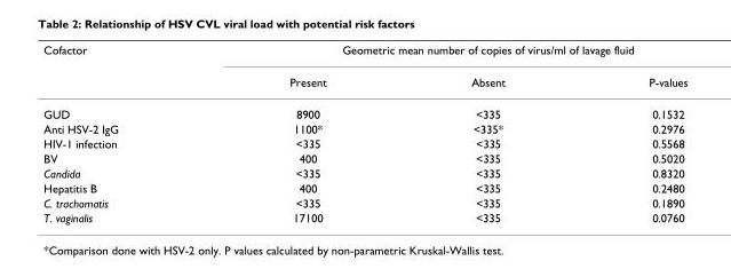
<table><thead><tr><td rowspan="2">Cofactor</td><td colspan="3">Geometric mean number of copies of virus/ml of lavage fluid</td></tr><tr><td>Present</td><td>Absent</td><td>P-values</td></tr></thead><tbody><tr><td>GUD</td><td>8900</td><td>&lt;335</td><td>0.1532</td></tr><tr><td>Anti HSV-2 IgG</td><td>1100*</td><td>&lt;335*</td><td>0.2976</td></tr><tr><td>HIV-1 infection</td><td>&lt;335</td><td>&lt;335</td><td>0.5568</td></tr><tr><td>BV</td><td>400</td><td>&lt;335</td><td>0.5020</td></tr><tr><td>Candida</td><td>&lt;335</td><td>&lt;335</td><td>0.8320</td></tr><tr><td>Hepatitis B</td><td>400</td><td>&lt;335</td><td>0.2480</td></tr><tr><td>C. trachomatis</td><td>&lt;335</td><td>&lt;335</td><td>0.1890</td></tr><tr><td>T. vaginalis</td><td>17100</td><td>&lt;335</td><td>0.0760</td></tr></tbody></table>